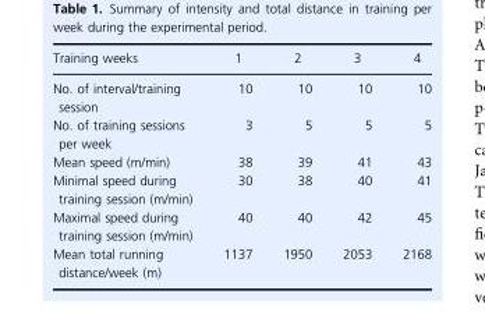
<table><thead><tr><td>Training weeks</td><td>1</td><td>2</td><td>3</td><td>4</td></tr></thead><tbody><tr><td>No. of interval/training session</td><td>10</td><td>10</td><td>10</td><td>10</td></tr><tr><td>No. of training sessions per week</td><td>3</td><td>5</td><td>5</td><td>5</td></tr><tr><td>Mean speed (m/min)</td><td>38</td><td>39</td><td>41</td><td>43</td></tr><tr><td>Minimal speed during training session (m/min)</td><td>30</td><td>38</td><td>40</td><td>41</td></tr><tr><td>Maximal speed during training session (m/min)</td><td>40</td><td>40</td><td>42</td><td>45</td></tr><tr><td>Mean total running distance/week (m)</td><td>1137</td><td>1950</td><td>2053</td><td>2168</td></tr></tbody></table>